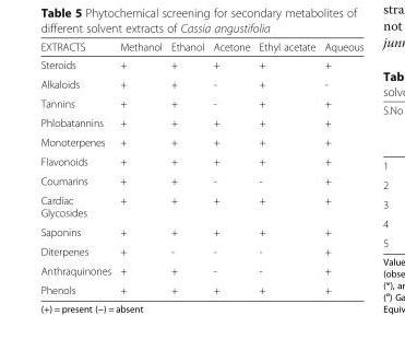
<table><thead><tr><td>EXTRACTS</td><td>Methanol</td><td>Ethanol</td><td>Acetone</td><td>Ethyl acetate</td><td>Aqueous</td></tr></thead><tbody><tr><td>Steroids</td><td>+</td><td>+</td><td>+</td><td>+</td><td>+</td></tr><tr><td>Alkaloids</td><td>+</td><td>+</td><td>-</td><td>+</td><td>-</td></tr><tr><td>Tannins</td><td>+</td><td>+</td><td>-</td><td>+</td><td>+</td></tr><tr><td>Phlobatannins</td><td>+</td><td>+</td><td>+</td><td>+</td><td>+</td></tr><tr><td>Monoterpenes</td><td>+</td><td>+</td><td>+</td><td>+</td><td>+</td></tr><tr><td>Flavonoids</td><td>+</td><td>+</td><td>+</td><td>+</td><td>+</td></tr><tr><td>Coumarins</td><td>+</td><td>+</td><td>-</td><td>-</td><td>+</td></tr><tr><td>Cardiac Glycosides</td><td>+</td><td>+</td><td>+</td><td>+</td><td>+</td></tr><tr><td>Saponins</td><td>+</td><td>+</td><td>+</td><td>+</td><td>+</td></tr><tr><td>Diterpenes</td><td>+</td><td>-</td><td>-</td><td>-</td><td>+</td></tr><tr><td>Anthraquinones</td><td>+</td><td>+</td><td>-</td><td>-</td><td>+</td></tr><tr><td>Phenols</td><td>+</td><td>+</td><td>+</td><td>+</td><td>+</td></tr></tbody></table>